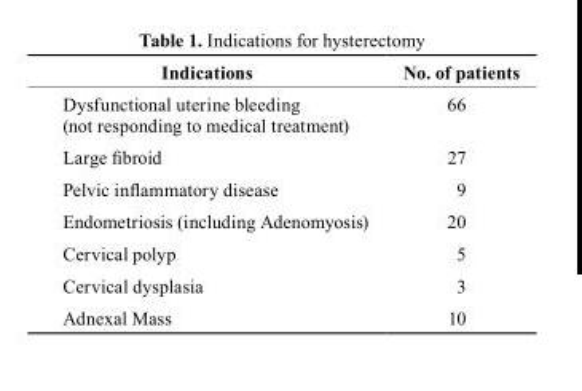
<table><thead><tr><td>Indications</td><td>No. of patients</td></tr></thead><tbody><tr><td>Dysfunctional uterine bleeding (not responding to medical treatment)</td><td>66</td></tr><tr><td>Large fibroid</td><td>27</td></tr><tr><td>Pelvic inflammatory disease</td><td>9</td></tr><tr><td>Endometriosis (including Adenomyosis)</td><td>20</td></tr><tr><td>Cervical polyp</td><td>5</td></tr><tr><td>Cervical dysplasia</td><td>3</td></tr><tr><td>Adnexal Mass</td><td>10</td></tr></tbody></table>